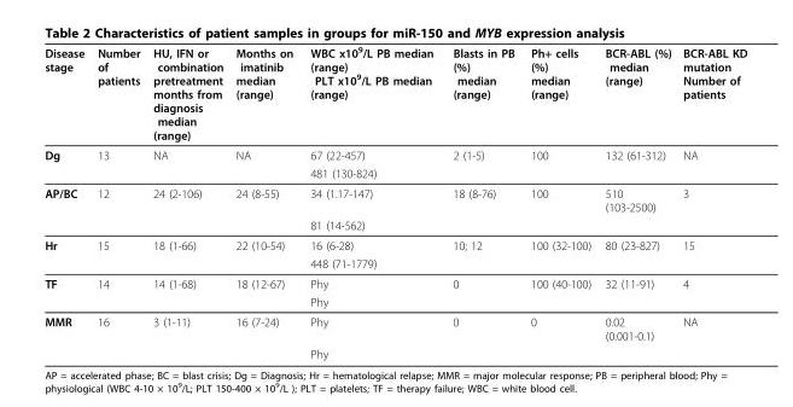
<table><thead><tr><td>Disease stage</td><td>Number of patients</td><td>HU, IFN or combination pretreatment months from diagnosis median (range)</td><td>Months on imatinib median (range)</td><td>WBC x10<sup>9</sup>/L PB median (range) PLT x10<sup>9</sup>/L PB median (range)</td><td>Blasts in PB (%) median (range)</td><td>Ph+ cells (%) median (range)</td><td>BCR-ABL (%) median (range)</td><td>BCR-ABL KD mutation Number of patients</td></tr></thead><tbody><tr><td rowspan="2">Dg</td><td>13</td><td>NA</td><td>NA</td><td>67 (22-457)</td><td>2 (1-5)</td><td>100</td><td>132 (61-312)</td><td>NA</td></tr><tr><td></td><td></td><td></td><td>481 (130-824)</td><td></td><td></td><td></td><td></td></tr><tr><td rowspan="2">AP/BC</td><td>12</td><td>24 (2-106)</td><td>24 (8-55)</td><td>34 (1.17-147)</td><td>18 (8-76)</td><td>100</td><td>510 (103-2500)</td><td>3</td></tr><tr><td></td><td></td><td></td><td>81 (14-562)</td><td></td><td></td><td></td><td></td></tr><tr><td rowspan="2">Hr</td><td>15</td><td>18 (1-66)</td><td>22 (10-54)</td><td>16 (6-28)</td><td>10; 12</td><td>100 (32-100)</td><td>80 (23-827)</td><td>15</td></tr><tr><td></td><td></td><td></td><td>448 (71-1779)</td><td></td><td></td><td></td><td></td></tr><tr><td rowspan="2">TF</td><td>14</td><td>14 (1-68)</td><td>18 (12-67)</td><td>Phy</td><td>0</td><td>100 (40-100)</td><td>32 (11-91)</td><td>4</td></tr><tr><td></td><td></td><td></td><td>Phy</td><td></td><td></td><td></td><td></td></tr><tr><td rowspan="2">MMR</td><td>16</td><td>3 (1-11)</td><td>16 (7-24)</td><td>Phy</td><td>0</td><td>0</td><td>0.02 (0.001-0.1)</td><td>NA</td></tr><tr><td></td><td></td><td></td><td>Phy</td><td></td><td></td><td></td><td></td></tr></tbody></table>